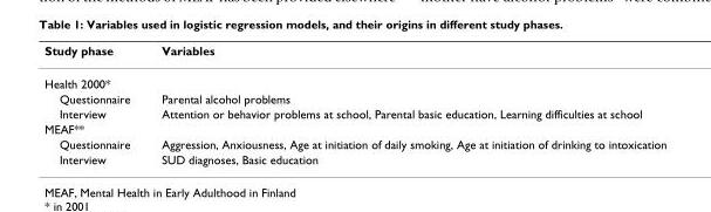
<table><thead><tr><td>Study phase</td><td>Variables</td></tr></thead><tbody><tr><td colspan="2">Health 2000*</td></tr><tr><td>Questionnaire</td><td>Parental alcohol problems</td></tr><tr><td>Interview</td><td>Attention or behavior problems at school, Parental basic education, Learning difficulties at school</td></tr><tr><td colspan="2">MEAF**</td></tr><tr><td>Questionnaire</td><td>Aggression, Anxiousness, Age at initiation of daily smoking, Age at initiation of drinking to intoxication</td></tr><tr><td>Interview</td><td>SUD diagnoses, Basic education</td></tr></tbody></table>